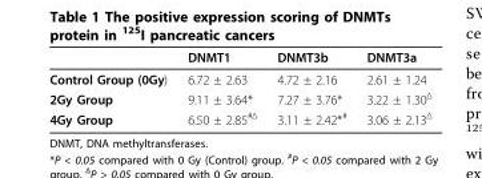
<table><thead><tr><td></td><td>DNMT1</td><td>DNMT3b</td><td>DNMT3a</td></tr></thead><tbody><tr><td>Control Group (0Gy)</td><td>6.72 ± 2.63</td><td>4.72 ± 2.16</td><td>2.61 ± 1.24</td></tr><tr><td>2Gy Group</td><td>9.11 ± 3.64*</td><td>7.27 ± 3.76*</td><td>3.22 ± 1.30<sup>Δ</sup></td></tr><tr><td>4Gy Group</td><td>6.50 ± 2.85<sup>#Δ</sup></td><td>3.11 ± 2.42*<sup>#</sup></td><td>3.06 ± 2.13<sup>Δ</sup></td></tr></tbody></table>